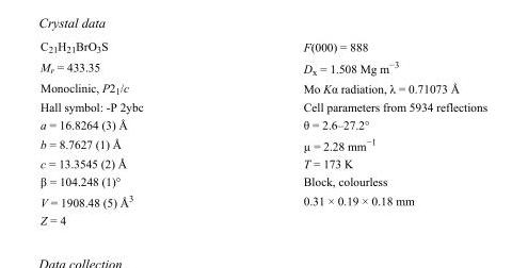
<table><tbody><tr><td>C<sub>21</sub>H<sub>21</sub>BrO<sub>3</sub>S</td><td>F(000) = 888</td></tr><tr><td>M<sub>r</sub> = 433.35</td><td>D<sub>x</sub> = 1.508 Mg m<sup>−3</sup></td></tr><tr><td>Monoclinic, P2<sub>1</sub>/c</td><td>Mo Kα radiation, λ = 0.71073 Å</td></tr><tr><td>Hall symbol: -P 2ybc</td><td>Cell parameters from 5934 reflections</td></tr><tr><td>a = 16.8264 (3) Å</td><td>θ = 2.6–27.2°</td></tr><tr><td>b = 8.7627 (1) Å</td><td>µ = 2.28 mm<sup>−1</sup></td></tr><tr><td>c = 13.3545 (2) Å</td><td>T = 173 K</td></tr><tr><td>β = 104.248 (1)°</td><td>Block, colourless</td></tr><tr><td>V = 1908.48 (5) Å<sup>3</sup></td><td>0.31 × 0.19 × 0.18 mm</td></tr><tr><td>Z = 4</td><td></td></tr></tbody></table>